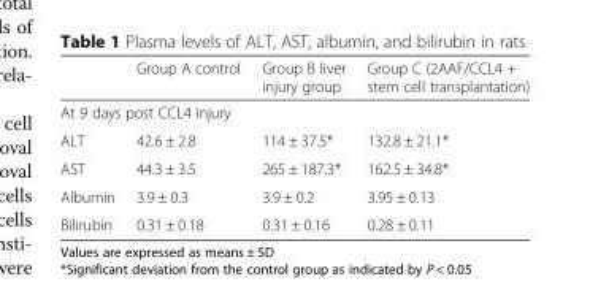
<table><thead><tr><td></td><td>Group A control</td><td>Group B liver injury group</td><td>Group C (2AAF/CCL4 + stem cell transplantation)</td></tr></thead><tbody><tr><td colspan="4">At 9 days post CCL4 injury</td></tr><tr><td>ALT</td><td>42.6 ± 2.8</td><td>114 ± 37.5*</td><td>132.8 ± 21.1*</td></tr><tr><td>AST</td><td>44.3 ± 3.5</td><td>265 ± 187.3*</td><td>162.5 ± 34.8*</td></tr><tr><td>Albumin</td><td>3.9 ± 0.3</td><td>3.9 ± 0.2</td><td>3.95 ± 0.13</td></tr><tr><td>Bilirubin</td><td>0.31 ± 0.18</td><td>0.31 ± 0.16</td><td>0.28 ± 0.11</td></tr></tbody></table>